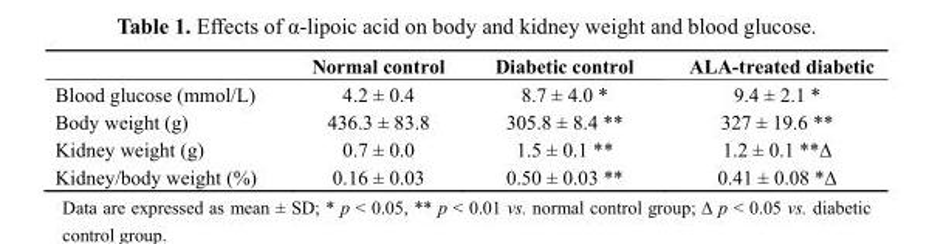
<table><thead><tr><td></td><td>Normal control</td><td>Diabetic control</td><td>ALA-treated diabetic</td></tr></thead><tbody><tr><td>Blood glucose (mmol/L)</td><td>4.2 ± 0.4</td><td>8.7 ± 4.0 *</td><td>9.4 ± 2.1 *</td></tr><tr><td>Body weight (g)</td><td>436.3 ± 83.8</td><td>305.8 ± 8.4 **</td><td>327 ± 19.6 **</td></tr><tr><td>Kidney weight (g)</td><td>0.7 ± 0.0</td><td>1.5 ± 0.1 **</td><td>1.2 ± 0.1 **∆</td></tr><tr><td>Kidney/body weight (%)</td><td>0.16 ± 0.03</td><td>0.50 ± 0.03 **</td><td>0.41 ± 0.08 *∆</td></tr></tbody></table>